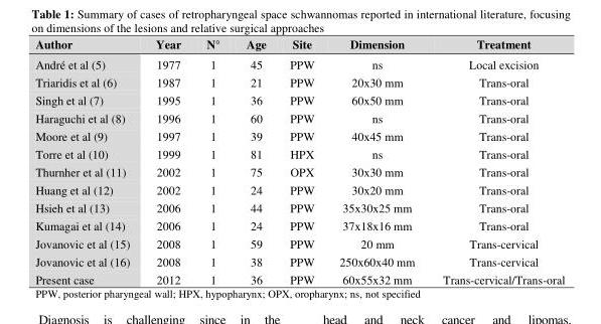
<table><thead><tr><td>Author</td><td>Year</td><td>N°</td><td>Age</td><td>Site</td><td>Dimension</td><td>Treatment</td></tr></thead><tbody><tr><td>André et al (5)</td><td>1977</td><td>1</td><td>45</td><td>PPW</td><td>ns</td><td>Local excision</td></tr><tr><td>Triaridis et al (6)</td><td>1987</td><td>1</td><td>21</td><td>PPW</td><td>20x30 mm</td><td>Trans-oral</td></tr><tr><td>Singh et al (7)</td><td>1995</td><td>1</td><td>36</td><td>PPW</td><td>60x50 mm</td><td>Trans-oral</td></tr><tr><td>Haraguchi et al (8)</td><td>1996</td><td>1</td><td>60</td><td>PPW</td><td>ns</td><td>Trans-oral</td></tr><tr><td>Moore et al (9)</td><td>1997</td><td>1</td><td>39</td><td>PPW</td><td>40x45 mm</td><td>Trans-oral</td></tr><tr><td>Torre et al (10)</td><td>1999</td><td>1</td><td>81</td><td>HPX</td><td>ns</td><td>Trans-oral</td></tr><tr><td>Thurnher et al (11)</td><td>2002</td><td>1</td><td>75</td><td>OPX</td><td>30x30 mm</td><td>Trans-oral</td></tr><tr><td>Huang et al (12)</td><td>2002</td><td>1</td><td>24</td><td>PPW</td><td>30x20 mm</td><td>Trans-oral</td></tr><tr><td>Hsieh et al (13)</td><td>2006</td><td>1</td><td>44</td><td>PPW</td><td>35x30x25 mm</td><td>Trans-oral</td></tr><tr><td>Kumagai et al (14)</td><td>2006</td><td>1</td><td>24</td><td>PPW</td><td>37x18x16 mm</td><td>Trans-oral</td></tr><tr><td>Jovanovic et al (15)</td><td>2008</td><td>1</td><td>59</td><td>PPW</td><td>20 mm</td><td>Trans-cervical</td></tr><tr><td>Jovanovic et al (16)</td><td>2008</td><td>1</td><td>38</td><td>PPW</td><td>250x60x40 mm</td><td>Trans-cervical</td></tr><tr><td>Present case</td><td>2012</td><td>1</td><td>36</td><td>PPW</td><td>60x55x32 mm</td><td>Trans-cervical/Trans-oral</td></tr></tbody></table>